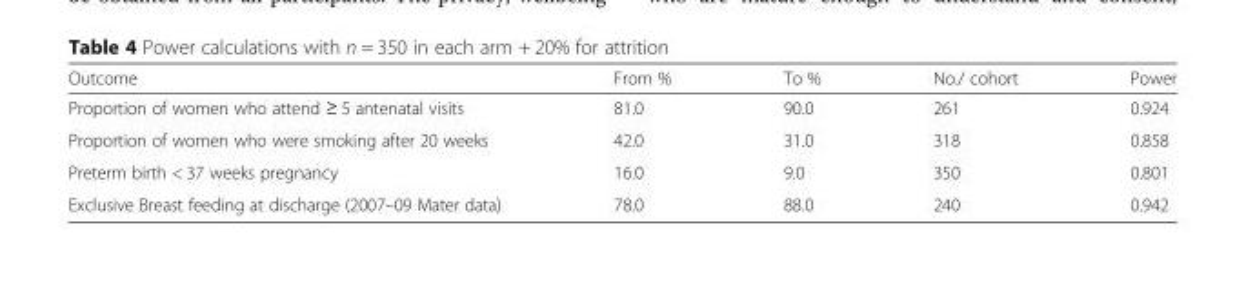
<table><thead><tr><td>Outcome</td><td>From %</td><td>To %</td><td>No./ cohort</td><td>Power</td></tr></thead><tbody><tr><td>Proportion of women who attend ≥ 5 antenatal visits</td><td>81.0</td><td>90.0</td><td>261</td><td>0.924</td></tr><tr><td>Proportion of women who were smoking after 20 weeks</td><td>42.0</td><td>31.0</td><td>318</td><td>0.858</td></tr><tr><td>Preterm birth &lt; 37 weeks pregnancy</td><td>16.0</td><td>9.0</td><td>350</td><td>0.801</td></tr><tr><td>Exclusive Breast feeding at discharge (2007–09 Mater data)</td><td>78.0</td><td>88.0</td><td>240</td><td>0.942</td></tr></tbody></table>